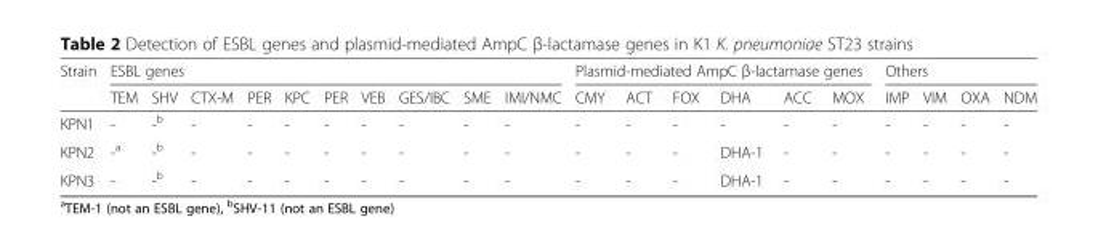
<table><thead><tr><td rowspan="2">Strain</td><td colspan="10">ESBL genes</td><td colspan="6">Plasmid-mediated AmpC β-lactamase genes</td><td colspan="4">Others</td></tr><tr><td>TEM</td><td>SHV</td><td>CTX-M</td><td>PER</td><td>KPC</td><td>PER</td><td>VEB</td><td>GES/IBC</td><td>SME</td><td>IMI/NMC</td><td>CMY</td><td>ACT</td><td>FOX</td><td>DHA</td><td>ACC</td><td>MOX</td><td>IMP</td><td>VIM</td><td>OXA</td><td>NDM</td></tr></thead><tbody><tr><td>KPN1</td><td>-</td><td>-<sup>b</sup></td><td>-</td><td>-</td><td>-</td><td>-</td><td>-</td><td>-</td><td>-</td><td>-</td><td>-</td><td>-</td><td>-</td><td>-</td><td>-</td><td>-</td><td>-</td><td>-</td><td>-</td><td>-</td></tr><tr><td>KPN2</td><td>-<sup>a</sup></td><td>-<sup>b</sup></td><td>-</td><td>-</td><td>-</td><td>-</td><td>-</td><td>-</td><td>-</td><td>-</td><td>-</td><td>-</td><td>-</td><td>DHA-1</td><td>-</td><td>-</td><td>-</td><td>-</td><td>-</td><td>-</td></tr><tr><td>KPN3</td><td>-</td><td>-<sup>b</sup></td><td>-</td><td>-</td><td>-</td><td>-</td><td>-</td><td>-</td><td>-</td><td>-</td><td>-</td><td>-</td><td>-</td><td>DHA-1</td><td>-</td><td>-</td><td>-</td><td>-</td><td>-</td><td>-</td></tr></tbody></table>